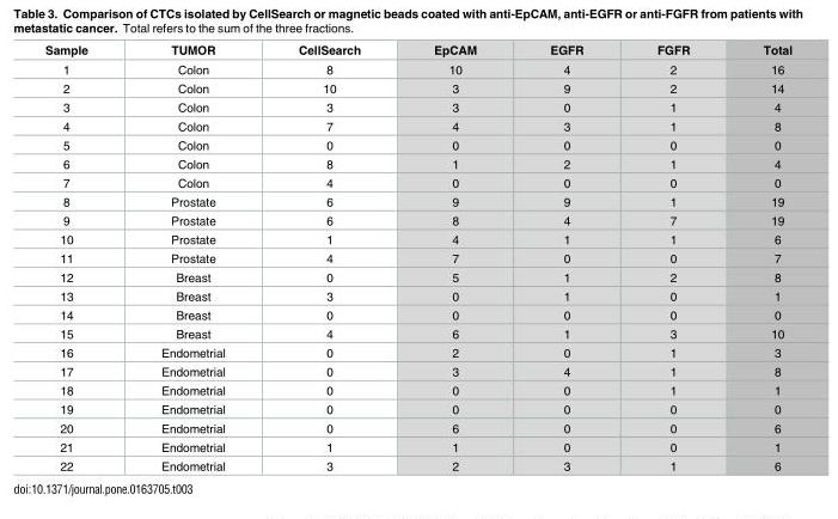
<table><thead><tr><td>Sample</td><td>TUMOR</td><td>CellSearch</td><td>EpCAM</td><td>EGFR</td><td>FGFR</td><td>Total</td></tr></thead><tbody><tr><td>1</td><td>Colon</td><td>8</td><td>10</td><td>4</td><td>2</td><td>16</td></tr><tr><td>2</td><td>Colon</td><td>10</td><td>3</td><td>9</td><td>2</td><td>14</td></tr><tr><td>3</td><td>Colon</td><td>3</td><td>3</td><td>0</td><td>1</td><td>4</td></tr><tr><td>4</td><td>Colon</td><td>7</td><td>4</td><td>3</td><td>1</td><td>8</td></tr><tr><td>5</td><td>Colon</td><td>0</td><td>0</td><td>0</td><td>0</td><td>0</td></tr><tr><td>6</td><td>Colon</td><td>8</td><td>1</td><td>2</td><td>1</td><td>4</td></tr><tr><td>7</td><td>Colon</td><td>4</td><td>0</td><td>0</td><td>0</td><td>0</td></tr><tr><td>8</td><td>Prostate</td><td>6</td><td>9</td><td>9</td><td>1</td><td>19</td></tr><tr><td>9</td><td>Prostate</td><td>6</td><td>8</td><td>4</td><td>7</td><td>19</td></tr><tr><td>10</td><td>Prostate</td><td>1</td><td>4</td><td>1</td><td>1</td><td>6</td></tr><tr><td>11</td><td>Prostate</td><td>4</td><td>7</td><td>0</td><td>0</td><td>7</td></tr><tr><td>12</td><td>Breast</td><td>0</td><td>5</td><td>1</td><td>2</td><td>8</td></tr><tr><td>13</td><td>Breast</td><td>3</td><td>0</td><td>1</td><td>0</td><td>1</td></tr><tr><td>14</td><td>Breast</td><td>0</td><td>0</td><td>0</td><td>0</td><td>0</td></tr><tr><td>15</td><td>Breast</td><td>4</td><td>6</td><td>1</td><td>3</td><td>10</td></tr><tr><td>16</td><td>Endometrial</td><td>0</td><td>2</td><td>0</td><td>1</td><td>3</td></tr><tr><td>17</td><td>Endometrial</td><td>0</td><td>3</td><td>4</td><td>1</td><td>8</td></tr><tr><td>18</td><td>Endometrial</td><td>0</td><td>0</td><td>0</td><td>1</td><td>1</td></tr><tr><td>19</td><td>Endometrial</td><td>0</td><td>0</td><td>0</td><td>0</td><td>0</td></tr><tr><td>20</td><td>Endometrial</td><td>0</td><td>6</td><td>0</td><td>0</td><td>6</td></tr><tr><td>21</td><td>Endometrial</td><td>1</td><td>1</td><td>0</td><td>0</td><td>1</td></tr><tr><td>22</td><td>Endometrial</td><td>3</td><td>2</td><td>3</td><td>1</td><td>6</td></tr></tbody></table>